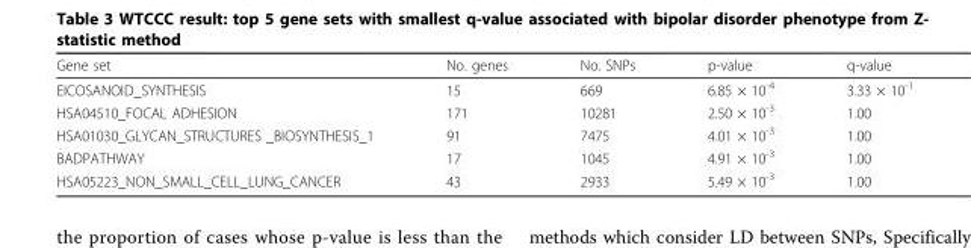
<table><thead><tr><td>Gene set</td><td>No. genes</td><td>No. SNPs</td><td>p-value</td><td>q-value</td></tr></thead><tbody><tr><td>EICOSANOID_SYNTHESIS</td><td>15</td><td>669</td><td>6.85 × 10<sup>-4</sup></td><td>3.33 × 10<sup>-1</sup></td></tr><tr><td>HSA04510_FOCAL ADHESION</td><td>171</td><td>10281</td><td>2.50 × 10<sup>-3</sup></td><td>1.00</td></tr><tr><td>HSA01030_GLYCAN_STRUCTURES _BIOSYNTHESIS_1</td><td>91</td><td>7475</td><td>4.01 × 10<sup>-3</sup></td><td>1.00</td></tr><tr><td>BADPATHWAY</td><td>17</td><td>1045</td><td>4.91 × 10<sup>-3</sup></td><td>1.00</td></tr><tr><td>HSA05223_NON_SMALL_CELL_LUNG_CANCER</td><td>43</td><td>2933</td><td>5.49 × 10<sup>-3</sup></td><td>1.00</td></tr></tbody></table>